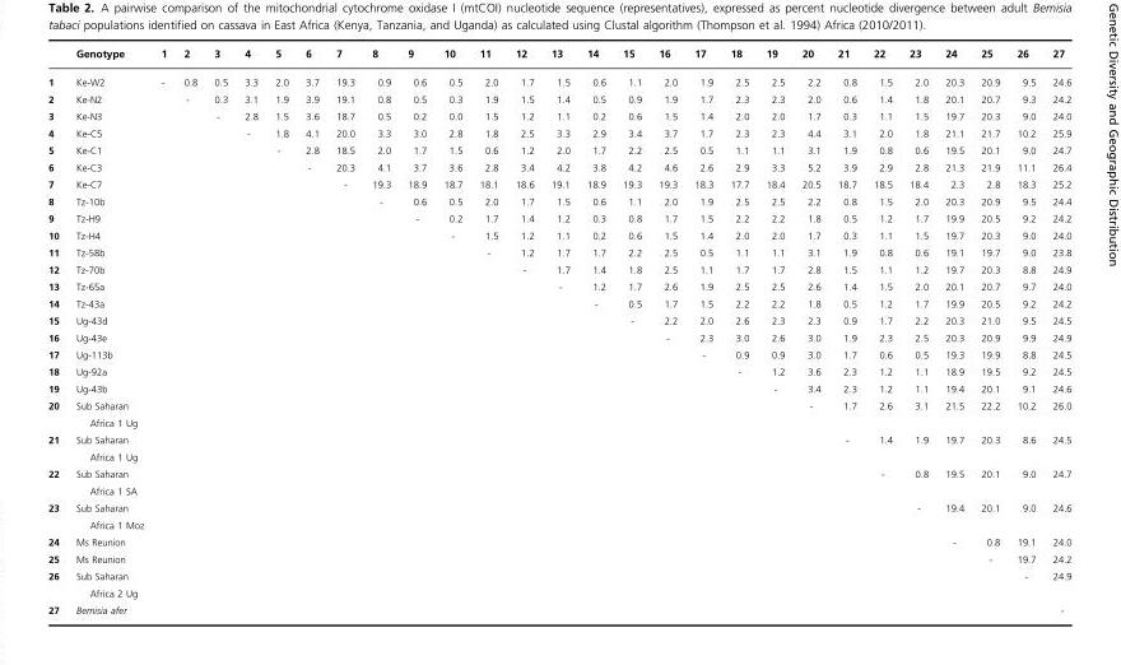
<table><thead><tr><td></td><td>Genotype</td><td>1</td><td>2</td><td>3</td><td>4</td><td>5</td><td>6</td><td>7</td><td>8</td><td>9</td><td>10</td><td>11</td><td>12</td><td>13</td><td>14</td><td>15</td><td>16</td><td>17</td><td>18</td><td>19</td><td>20</td><td>21</td><td>22</td><td>23</td><td>24</td><td>25</td><td>26</td><td>27</td></tr></thead><tbody><tr><td>1</td><td>Ke-W2</td><td>-</td><td>0.8</td><td>0.5</td><td>3.3</td><td>2.0</td><td>3.7</td><td>19.3</td><td>0.9</td><td>0.6</td><td>0.5</td><td>2.0</td><td>1.7</td><td>1.5</td><td>0.6</td><td>1.1</td><td>2.0</td><td>1.9</td><td>2.5</td><td>2.5</td><td>2.2</td><td>0.8</td><td>1.5</td><td>2.0</td><td>20.3</td><td>20.9</td><td>9.5</td><td>24.6</td></tr><tr><td>2</td><td>Ke-N2</td><td></td><td>-</td><td>0.3</td><td>3.1</td><td>1.9</td><td>3.9</td><td>19.1</td><td>0.8</td><td>0.5</td><td>0.3</td><td>1.9</td><td>1.5</td><td>1.4</td><td>0.5</td><td>0.9</td><td>1.9</td><td>1.7</td><td>2.3</td><td>2.3</td><td>2.0</td><td>0.6</td><td>1.4</td><td>1.8</td><td>20.1</td><td>20.7</td><td>9.3</td><td>24.2</td></tr><tr><td>3</td><td>Ke-N3</td><td></td><td></td><td>-</td><td>2.8</td><td>1.5</td><td>3.6</td><td>18.7</td><td>0.5</td><td>0.2</td><td>0.0</td><td>1.5</td><td>1.2</td><td>1.1</td><td>0.2</td><td>0.6</td><td>1.5</td><td>1.4</td><td>2.0</td><td>2.0</td><td>1.7</td><td>0.3</td><td>1.1</td><td>1.5</td><td>19.7</td><td>20.3</td><td>9.0</td><td>24.0</td></tr><tr><td>4</td><td>Ke-C5</td><td></td><td></td><td></td><td>-</td><td>1.8</td><td>4.1</td><td>20.0</td><td>3.3</td><td>3.0</td><td>2.8</td><td>1.8</td><td>2.5</td><td>3.3</td><td>2.9</td><td>3.4</td><td>3.7</td><td>1.7</td><td>2.3</td><td>2.3</td><td>4.4</td><td>3.1</td><td>2.0</td><td>1.8</td><td>21.1</td><td>21.7</td><td>10.2</td><td>25.9</td></tr><tr><td>5</td><td>Ke-C1</td><td></td><td></td><td></td><td></td><td>-</td><td>2.8</td><td>18.5</td><td>2.0</td><td>1.7</td><td>1.5</td><td>0.6</td><td>1.2</td><td>2.0</td><td>1.7</td><td>2.2</td><td>2.5</td><td>0.5</td><td>1.1</td><td>1.1</td><td>3.1</td><td>1.9</td><td>0.8</td><td>0.6</td><td>19.5</td><td>20.1</td><td>9.0</td><td>24.7</td></tr><tr><td>6</td><td>Ke-C3</td><td></td><td></td><td></td><td></td><td></td><td>-</td><td>20.3</td><td>4.1</td><td>3.7</td><td>3.6</td><td>2.8</td><td>3.4</td><td>4.2</td><td>3.8</td><td>4.2</td><td>4.6</td><td>2.6</td><td>2.9</td><td>3.3</td><td>5.2</td><td>3.9</td><td>2.9</td><td>2.8</td><td>21.3</td><td>21.9</td><td>11.1</td><td>26.4</td></tr><tr><td>7</td><td>Ke-C7</td><td></td><td></td><td></td><td></td><td></td><td></td><td>-</td><td>19.3</td><td>18.9</td><td>18.7</td><td>18.1</td><td>18.6</td><td>19.1</td><td>18.9</td><td>19.3</td><td>19.3</td><td>18.3</td><td>17.7</td><td>18.4</td><td>20.5</td><td>18.7</td><td>18.5</td><td>18.4</td><td>2.3</td><td>2.8</td><td>18.3</td><td>25.2</td></tr><tr><td>8</td><td>Tz-10b</td><td></td><td></td><td></td><td></td><td></td><td></td><td></td><td>-</td><td>0.6</td><td>0.5</td><td>2.0</td><td>1.7</td><td>1.5</td><td>0.6</td><td>1.1</td><td>2.0</td><td>1.9</td><td>2.5</td><td>2.5</td><td>2.2</td><td>0.8</td><td>1.5</td><td>2.0</td><td>20.3</td><td>20.9</td><td>9.5</td><td>24.4</td></tr><tr><td>9</td><td>Tz-H9</td><td></td><td></td><td></td><td></td><td></td><td></td><td></td><td></td><td>-</td><td>0.2</td><td>1.7</td><td>1.4</td><td>1.2</td><td>0.3</td><td>0.8</td><td>1.7</td><td>1.5</td><td>2.2</td><td>2.2</td><td>1.8</td><td>0.5</td><td>1.2</td><td>1.7</td><td>19.9</td><td>20.5</td><td>9.2</td><td>24.2</td></tr><tr><td>10</td><td>Tz-H4</td><td></td><td></td><td></td><td></td><td></td><td></td><td></td><td></td><td></td><td>-</td><td>1.5</td><td>1.2</td><td>1.1</td><td>0.2</td><td>0.6</td><td>1.5</td><td>1.4</td><td>2.0</td><td>2.0</td><td>1.7</td><td>0.3</td><td>1.1</td><td>1.5</td><td>19.7</td><td>20.3</td><td>9.0</td><td>24.0</td></tr><tr><td>11</td><td>Tz-58b</td><td></td><td></td><td></td><td></td><td></td><td></td><td></td><td></td><td></td><td></td><td>-</td><td>1.2</td><td>1.7</td><td>1.7</td><td>2.2</td><td>2.5</td><td>0.5</td><td>1.1</td><td>1.1</td><td>3.1</td><td>1.9</td><td>0.8</td><td>0.6</td><td>19.1</td><td>19.7</td><td>9.0</td><td>23.8</td></tr><tr><td>12</td><td>Tz-70b</td><td></td><td></td><td></td><td></td><td></td><td></td><td></td><td></td><td></td><td></td><td></td><td>-</td><td>1.7</td><td>1.4</td><td>1.8</td><td>2.5</td><td>1.1</td><td>1.7</td><td>1.7</td><td>2.8</td><td>1.5</td><td>1.1</td><td>1.2</td><td>19.7</td><td>20.3</td><td>8.8</td><td>24.9</td></tr><tr><td>13</td><td>Tz-65a</td><td></td><td></td><td></td><td></td><td></td><td></td><td></td><td></td><td></td><td></td><td></td><td></td><td>-</td><td>1.2</td><td>1.7</td><td>2.6</td><td>1.9</td><td>2.5</td><td>2.5</td><td>2.6</td><td>1.4</td><td>1.5</td><td>2.0</td><td>20.1</td><td>20.7</td><td>9.7</td><td>24.0</td></tr><tr><td>14</td><td>Tz-43a</td><td></td><td></td><td></td><td></td><td></td><td></td><td></td><td></td><td></td><td></td><td></td><td></td><td></td><td>-</td><td>0.5</td><td>1.7</td><td>1.5</td><td>2.2</td><td>2.2</td><td>1.8</td><td>0.5</td><td>1.2</td><td>1.7</td><td>19.9</td><td>20.5</td><td>9.2</td><td>24.2</td></tr><tr><td>15</td><td>Ug-43d</td><td></td><td></td><td></td><td></td><td></td><td></td><td></td><td></td><td></td><td></td><td></td><td></td><td></td><td></td><td>-</td><td>2.2</td><td>2.0</td><td>2.6</td><td>2.3</td><td>2.3</td><td>0.9</td><td>1.7</td><td>2.2</td><td>20.3</td><td>21.0</td><td>9.5</td><td>24.5</td></tr><tr><td>16</td><td>Ug-43e</td><td></td><td></td><td></td><td></td><td></td><td></td><td></td><td></td><td></td><td></td><td></td><td></td><td></td><td></td><td></td><td>-</td><td>2.3</td><td>3.0</td><td>2.6</td><td>3.0</td><td>1.9</td><td>2.3</td><td>2.5</td><td>20.3</td><td>20.9</td><td>9.9</td><td>24.9</td></tr><tr><td>17</td><td>Ug-113b</td><td></td><td></td><td></td><td></td><td></td><td></td><td></td><td></td><td></td><td></td><td></td><td></td><td></td><td></td><td></td><td></td><td>-</td><td>0.9</td><td>0.9</td><td>3.0</td><td>1.7</td><td>0.6</td><td>0.5</td><td>19.3</td><td>19.9</td><td>8.8</td><td>24.5</td></tr><tr><td>18</td><td>Ug-92a</td><td></td><td></td><td></td><td></td><td></td><td></td><td></td><td></td><td></td><td></td><td></td><td></td><td></td><td></td><td></td><td></td><td></td><td>-</td><td>1.2</td><td>3.6</td><td>2.3</td><td>1.2</td><td>1.1</td><td>18.9</td><td>19.5</td><td>9.2</td><td>24.5</td></tr><tr><td>19</td><td>Ug-43b</td><td></td><td></td><td></td><td></td><td></td><td></td><td></td><td></td><td></td><td></td><td></td><td></td><td></td><td></td><td></td><td></td><td></td><td></td><td>-</td><td>3.4</td><td>2.3</td><td>1.2</td><td>1.1</td><td>19.4</td><td>20.1</td><td>9.1</td><td>24.6</td></tr><tr><td>20</td><td>Sub Saharan Africa 1 Ug</td><td></td><td></td><td></td><td></td><td></td><td></td><td></td><td></td><td></td><td></td><td></td><td></td><td></td><td></td><td></td><td></td><td></td><td></td><td></td><td>-</td><td>1.7</td><td>2.6</td><td>3.1</td><td>21.5</td><td>22.2</td><td>10.2</td><td>26.0</td></tr><tr><td>21</td><td>Sub Saharan Africa 1 Ug</td><td></td><td></td><td></td><td></td><td></td><td></td><td></td><td></td><td></td><td></td><td></td><td></td><td></td><td></td><td></td><td></td><td></td><td></td><td></td><td></td><td>-</td><td>1.4</td><td>1.9</td><td>19.7</td><td>20.3</td><td>8.6</td><td>24.5</td></tr><tr><td>22</td><td>Sub Saharan Africa 1 SA</td><td></td><td></td><td></td><td></td><td></td><td></td><td></td><td></td><td></td><td></td><td></td><td></td><td></td><td></td><td></td><td></td><td></td><td></td><td></td><td></td><td></td><td>-</td><td>0.8</td><td>19.5</td><td>20.1</td><td>9.0</td><td>24.7</td></tr><tr><td>23</td><td>Sub Saharan Africa 1 Moz</td><td></td><td></td><td></td><td></td><td></td><td></td><td></td><td></td><td></td><td></td><td></td><td></td><td></td><td></td><td></td><td></td><td></td><td></td><td></td><td></td><td></td><td></td><td>-</td><td>19.4</td><td>20.1</td><td>9.0</td><td>24.6</td></tr><tr><td>24</td><td>Ms Reunion</td><td></td><td></td><td></td><td></td><td></td><td></td><td></td><td></td><td></td><td></td><td></td><td></td><td></td><td></td><td></td><td></td><td></td><td></td><td></td><td></td><td></td><td></td><td></td><td>-</td><td>0.8</td><td>19.1</td><td>24.0</td></tr><tr><td>25</td><td>Ms Reunion</td><td></td><td></td><td></td><td></td><td></td><td></td><td></td><td></td><td></td><td></td><td></td><td></td><td></td><td></td><td></td><td></td><td></td><td></td><td></td><td></td><td></td><td></td><td></td><td></td><td>-</td><td>19.7</td><td>24.2</td></tr><tr><td>26</td><td>Sub Saharan Africa 2 Ug</td><td></td><td></td><td></td><td></td><td></td><td></td><td></td><td></td><td></td><td></td><td></td><td></td><td></td><td></td><td></td><td></td><td></td><td></td><td></td><td></td><td></td><td></td><td></td><td></td><td></td><td>-</td><td>24.9</td></tr><tr><td>27</td><td>Bemisia afer</td><td></td><td></td><td></td><td></td><td></td><td></td><td></td><td></td><td></td><td></td><td></td><td></td><td></td><td></td><td></td><td></td><td></td><td></td><td></td><td></td><td></td><td></td><td></td><td></td><td></td><td></td><td>-</td></tr></tbody></table>